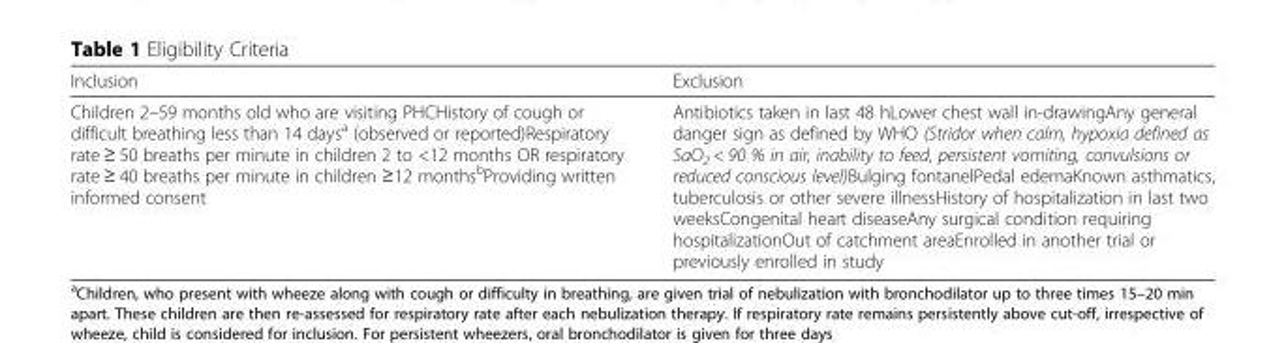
<table><thead><tr><td>Inclusion</td><td>Exclusion</td></tr></thead><tbody><tr><td>Children 2–59 months old who are visiting PHCHistory of cough or difficult breathing less than 14 days<sup>a</sup> (observed or reported)Respiratory rate ≥ 50 breaths per minute in children 2 to &lt;12 months OR respiratory rate ≥ 40 breaths per minute in children ≥12 months<sup>b</sup>Providing written informed consent</td><td>Antibiotics taken in last 48 hLower chest wall in-drawingAny general danger sign as defined by WHO (Stridor when calm, hypoxia defined as SaO<sub>2</sub> &lt; 90 % in air, inability to feed, persistent vomiting, convulsions or reduced conscious level)Bulging fontanelPedal edemaKnown asthmatics, tuberculosis or other severe illnessHistory of hospitalization in last two weeksCongenital heart diseaseAny surgical condition requiring hospitalizationOut of catchment areaEnrolled in another trial or previously enrolled in study</td></tr></tbody></table>